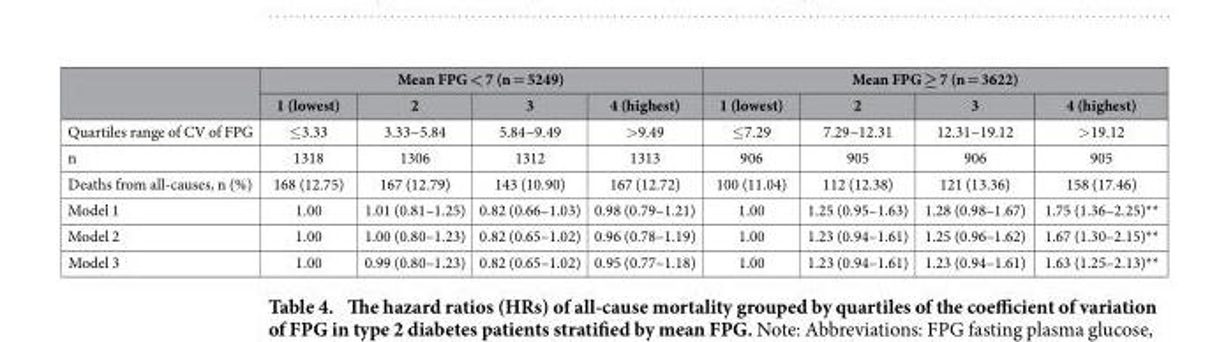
<table><thead><tr><td rowspan="2"></td><td colspan="4">Mean FPG &lt; 7 (n = 5249)</td><td colspan="4">Mean FPG ≥ 7 (n = 3622)</td></tr><tr><td>1 (lowest)</td><td>2</td><td>3</td><td>4 (highest)</td><td>1 (lowest)</td><td>2</td><td>3</td><td>4 (highest)</td></tr></thead><tbody><tr><td>Quartiles range of CV of FPG</td><td>≤ 3.33</td><td>3.33~5.84</td><td>5.84~9.49</td><td>&gt; 9.49</td><td>≤ 7.29</td><td>7.29~12.31</td><td>12.31~19.12</td><td>&gt; 19.12</td></tr><tr><td>n</td><td>1318</td><td>1306</td><td>1312</td><td>1313</td><td>906</td><td>905</td><td>906</td><td>905</td></tr><tr><td>Deaths from all-causes, n (%)</td><td>168 (12.75)</td><td>167 (12.79)</td><td>143 (10.90)</td><td>167 (12.72)</td><td>100 (11.04)</td><td>112 (12.38)</td><td>121 (13.36)</td><td>158 (17.46)</td></tr><tr><td>Model 1</td><td>1.00</td><td>1.01 (0.81–1.25)</td><td>0.82 (0.66–1.03)</td><td>0.98 (0.79–1.21)</td><td>1.00</td><td>1.25 (0.95–1.63)</td><td>1.28 (0.98–1.67)</td><td>1.75 (1.36–2.25)**</td></tr><tr><td>Model 2</td><td>1.00</td><td>1.00 (0.80–1.23)</td><td>0.82 (0.65–1.02)</td><td>0.96 (0.78–1.19)</td><td>1.00</td><td>1.23 (0.94–1.61)</td><td>1.25 (0.96–1.62)</td><td>1.67 (1.30–2.15)**</td></tr><tr><td>Model 3</td><td>1.00</td><td>0.99 (0.80–1.23)</td><td>0.82 (0.65–1.02)</td><td>0.95 (0.77–1.18)</td><td>1.00</td><td>1.23 (0.94–1.61)</td><td>1.23 (0.94–1.61)</td><td>1.63 (1.25–2.13)**</td></tr></tbody></table>